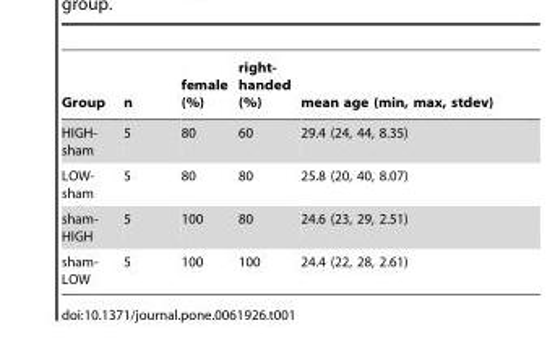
<table><thead><tr><td>Group</td><td>n</td><td>female (%)</td><td>right- handed (%)</td><td>mean age (min, max, stdev)</td></tr></thead><tbody><tr><td>HIGH- sham</td><td>5</td><td>80</td><td>60</td><td>29.4 (24, 44, 8.35)</td></tr><tr><td>LOW- sham</td><td>5</td><td>80</td><td>80</td><td>25.8 (20, 40, 8.07)</td></tr><tr><td>sham- HIGH</td><td>5</td><td>100</td><td>80</td><td>24.6 (23, 29, 2.51)</td></tr><tr><td>sham- LOW</td><td>5</td><td>100</td><td>100</td><td>24.4 (22, 28, 2.61)</td></tr></tbody></table>